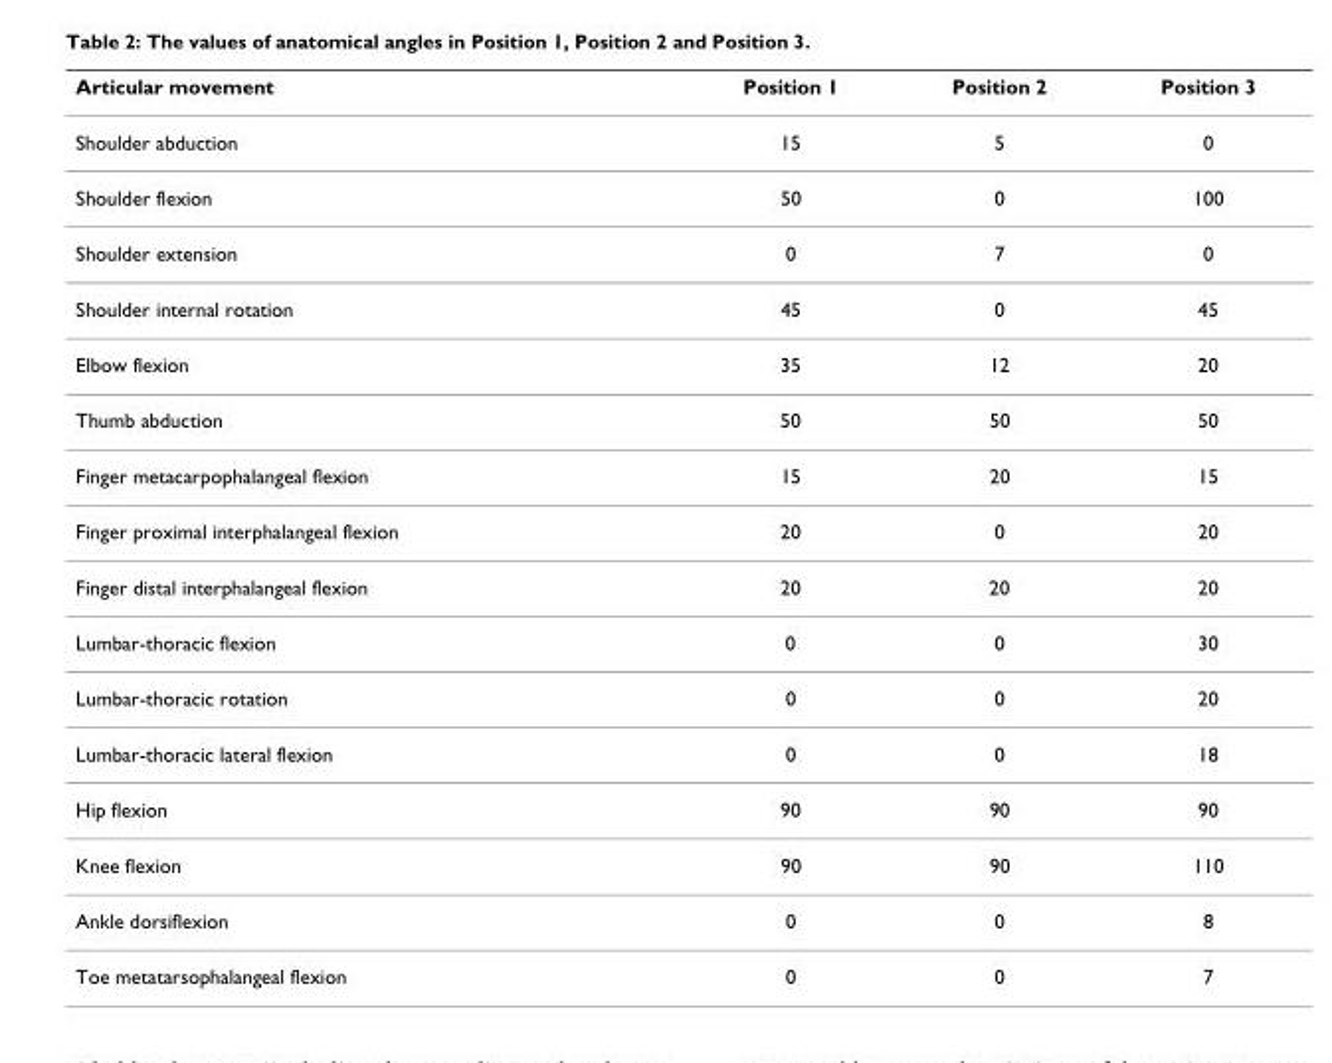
<table><thead><tr><td>Articular movement</td><td>Position 1</td><td>Position 2</td><td>Position 3</td></tr></thead><tbody><tr><td>Shoulder abduction</td><td>15</td><td>5</td><td>0</td></tr><tr><td>Shoulder flexion</td><td>50</td><td>0</td><td>100</td></tr><tr><td>Shoulder extension</td><td>0</td><td>7</td><td>0</td></tr><tr><td>Shoulder internal rotation</td><td>45</td><td>0</td><td>45</td></tr><tr><td>Elbow flexion</td><td>35</td><td>12</td><td>20</td></tr><tr><td>Thumb abduction</td><td>50</td><td>50</td><td>50</td></tr><tr><td>Finger metacarpophalangeal flexion</td><td>15</td><td>20</td><td>15</td></tr><tr><td>Finger proximal interphalangeal flexion</td><td>20</td><td>0</td><td>20</td></tr><tr><td>Finger distal interphalangeal flexion</td><td>20</td><td>20</td><td>20</td></tr><tr><td>Lumbar-thoracic flexion</td><td>0</td><td>0</td><td>30</td></tr><tr><td>Lumbar-thoracic rotation</td><td>0</td><td>0</td><td>20</td></tr><tr><td>Lumbar-thoracic lateral flexion</td><td>0</td><td>0</td><td>18</td></tr><tr><td>Hip flexion</td><td>90</td><td>90</td><td>90</td></tr><tr><td>Knee flexion</td><td>90</td><td>90</td><td>110</td></tr><tr><td>Ankle dorsiflexion</td><td>0</td><td>0</td><td>8</td></tr><tr><td>Toe metatarsophalangeal flexion</td><td>0</td><td>0</td><td>7</td></tr></tbody></table>